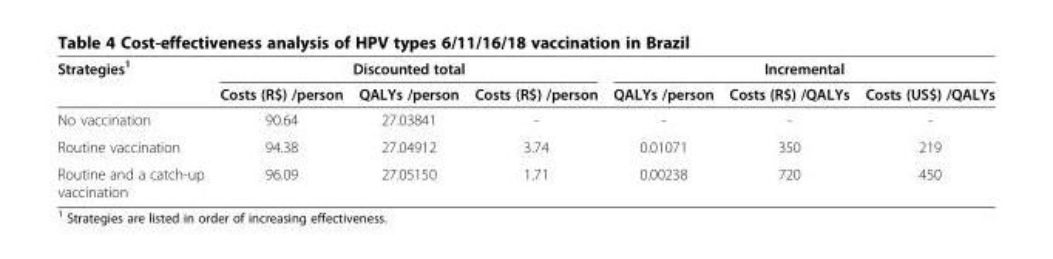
<table><thead><tr><td rowspan="2">Strategies<sup>1</sup></td><td colspan="3">Discounted total</td><td colspan="3">Incremental</td></tr><tr><td>Costs (R$) /person</td><td>QALYs /person</td><td>Costs (R$) /person</td><td>QALYs /person</td><td>Costs (R$) /QALYs</td><td>Costs (US$) /QALYs</td></tr></thead><tbody><tr><td>No vaccination</td><td>90.64</td><td>27.03841</td><td>-</td><td>-</td><td>-</td><td>-</td></tr><tr><td>Routine vaccination</td><td>94.38</td><td>27.04912</td><td>3.74</td><td>0.01071</td><td>350</td><td>219</td></tr><tr><td>Routine and a catch-up vaccination</td><td>96.09</td><td>27.05150</td><td>1.71</td><td>0.00238</td><td>720</td><td>450</td></tr></tbody></table>